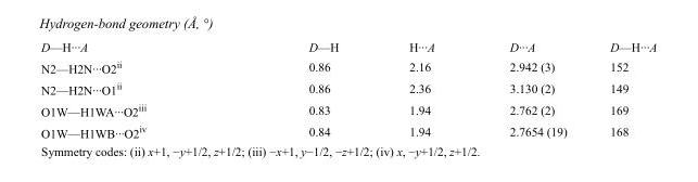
<table><tbody><tr><td>D—H···A</td><td>D—H</td><td>H···A</td><td>D···A</td><td>D—H···A</td></tr><tr><td>N2—H2N···O2<sup>ii</sup></td><td>0.86</td><td>2.16</td><td>2.942 (3)</td><td>152</td></tr><tr><td>N2—H2N···O1<sup>ii</sup></td><td>0.86</td><td>2.36</td><td>3.130 (2)</td><td>149</td></tr><tr><td>O1W—H1WA···O2<sup>iii</sup></td><td>0.83</td><td>1.94</td><td>2.762 (2)</td><td>169</td></tr><tr><td>O1W—H1WB···O2<sup>iv</sup></td><td>0.84</td><td>1.94</td><td>2.7654 (19)</td><td>168</td></tr></tbody></table>